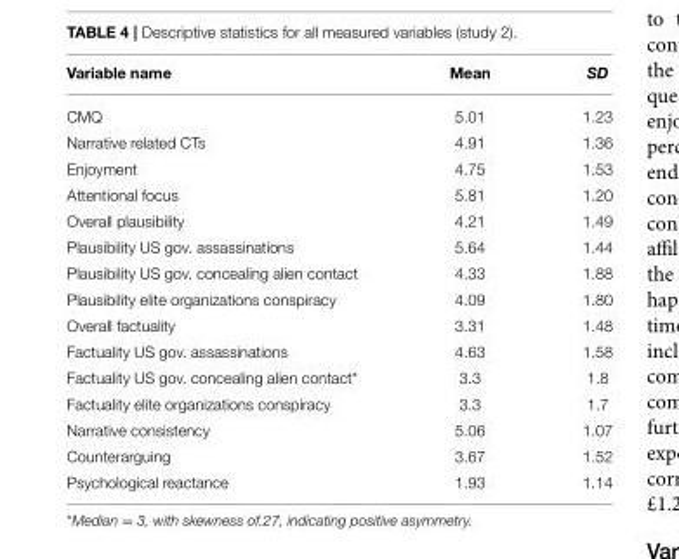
<table><thead><tr><td>Variable name</td><td>Mean</td><td>SD</td></tr></thead><tbody><tr><td>CMQ</td><td>5.01</td><td>1.23</td></tr><tr><td>Narrative related CTs</td><td>4.91</td><td>1.36</td></tr><tr><td>Enjoyment</td><td>4.75</td><td>1.53</td></tr><tr><td>Attentional focus</td><td>5.81</td><td>1.20</td></tr><tr><td>Overall plausibility</td><td>4.21</td><td>1.49</td></tr><tr><td>Plausibility US gov. assassinations</td><td>5.64</td><td>1.44</td></tr><tr><td>Plausibility US gov. concealing alien contact</td><td>4.33</td><td>1.88</td></tr><tr><td>Plausibility elite organizations conspiracy</td><td>4.09</td><td>1.80</td></tr><tr><td>Overall factuality</td><td>3.31</td><td>1.48</td></tr><tr><td>Factuality US gov. assassinations</td><td>4.63</td><td>1.58</td></tr><tr><td>Factuality US gov. concealing alien contact*</td><td>3.3</td><td>1.8</td></tr><tr><td>Factuality elite organizations conspiracy</td><td>3.3</td><td>1.7</td></tr><tr><td>Narrative consistency</td><td>5.06</td><td>1.07</td></tr><tr><td>Counterarguing</td><td>3.67</td><td>1.52</td></tr><tr><td>Psychological reactance</td><td>1.93</td><td>1.14</td></tr></tbody></table>